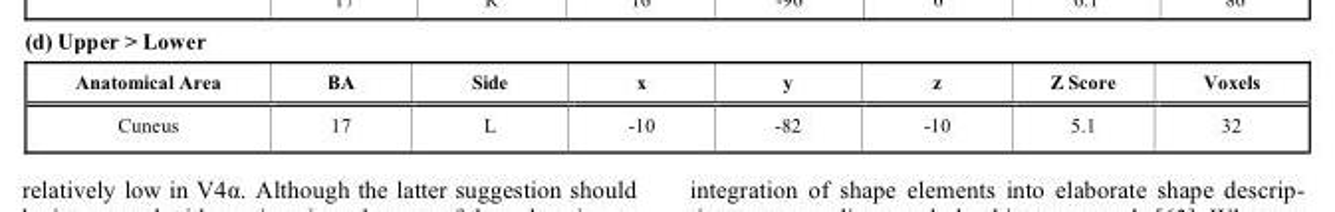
<table><thead><tr><td>Anatomical Area</td><td>BA</td><td>Side</td><td>x</td><td>y</td><td>z</td><td>Z Score</td><td>Voxels</td></tr></thead><tbody><tr><td>Cuneus</td><td>17</td><td>L</td><td>-10</td><td>-82</td><td>-10</td><td>5.1</td><td>32</td></tr></tbody></table>